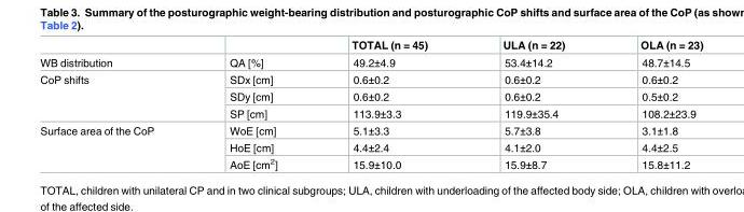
<table><thead><tr><td></td><td></td><td>TOTAL (n = 45)</td><td>ULA (n = 22)</td><td>OLA (n = 23)</td></tr></thead><tbody><tr><td>WB distribution</td><td>QA [%]</td><td>49.2±4.9</td><td>53.4±14.2</td><td>48.7±14.5</td></tr><tr><td rowspan="3">CoP shifts</td><td>SDx [cm]</td><td>0.6±0.2</td><td>0.6±0.2</td><td>0.6±0.2</td></tr><tr><td>SDy [cm]</td><td>0.6±0.2</td><td>0.6±0.2</td><td>0.5±0.2</td></tr><tr><td>SP [cm]</td><td>113.9±3.3</td><td>119.9±35.4</td><td>108.2±23.9</td></tr><tr><td rowspan="3">Surface area of the CoP</td><td>WoE [cm]</td><td>5.1±3.3</td><td>5.7±3.8</td><td>3.1±1.8</td></tr><tr><td>HoE [cm]</td><td>4.4±2.4</td><td>4.1±2.0</td><td>4.4±2.5</td></tr><tr><td>AoE [cm<sup>2</sup>]</td><td>15.9±10.0</td><td>15.9±8.7</td><td>15.8±11.2</td></tr></tbody></table>